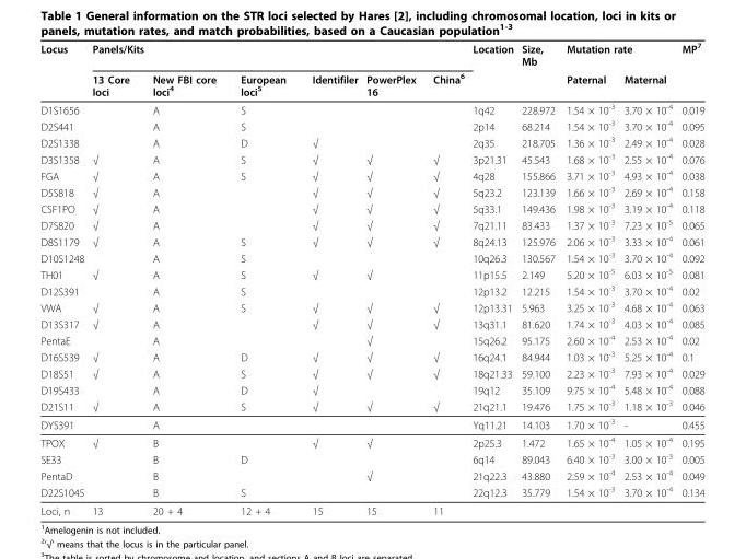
<table><thead><tr><td rowspan="2">Locus</td><td colspan="6">Panels/Kits</td><td rowspan="2">Location</td><td rowspan="2">Size, Mb</td><td colspan="2">Mutation rate</td><td rowspan="2">MP<sup>7</sup></td></tr><tr><td>13 Core loci</td><td>New FBI core loci<sup>4</sup></td><td>European loci<sup>5</sup></td><td>Identifiler</td><td>PowerPlex 16</td><td>China<sup>6</sup></td><td>Paternal</td><td>Maternal</td></tr></thead><tbody><tr><td>D1S1656</td><td></td><td>A</td><td>S</td><td></td><td></td><td></td><td>1q42</td><td>228.972</td><td>1.54 × 10<sup>-3</sup></td><td>3.70 × 10<sup>-4</sup></td><td>0.019</td></tr><tr><td>D2S441</td><td></td><td>A</td><td>S</td><td></td><td></td><td></td><td>2p14</td><td>68.214</td><td>1.54 × 10<sup>-3</sup></td><td>3.70 × 10<sup>-4</sup></td><td>0.095</td></tr><tr><td>D2S1338</td><td></td><td>A</td><td>D</td><td>√</td><td></td><td></td><td>2q35</td><td>218.705</td><td>1.36 × 10<sup>-3</sup></td><td>2.49 × 10<sup>-4</sup></td><td>0.028</td></tr><tr><td>D3S1358</td><td>√</td><td>A</td><td>S</td><td>√</td><td>√</td><td>√</td><td>3p21.31</td><td>45.543</td><td>1.68 × 10<sup>-3</sup></td><td>2.55 × 10<sup>-4</sup></td><td>0.076</td></tr><tr><td>FGA</td><td>√</td><td>A</td><td>S</td><td>√</td><td>√</td><td>√</td><td>4q28</td><td>155.866</td><td>3.71 × 10<sup>-3</sup></td><td>4.93 × 10<sup>-4</sup></td><td>0.038</td></tr><tr><td>D5S818</td><td>√</td><td>A</td><td></td><td>√</td><td>√</td><td>√</td><td>5q23.2</td><td>123.139</td><td>1.66 × 10<sup>-3</sup></td><td>2.69 × 10<sup>-4</sup></td><td>0.158</td></tr><tr><td>CSF1PO</td><td>√</td><td>A</td><td></td><td>√</td><td>√</td><td>√</td><td>5q33.1</td><td>149.436</td><td>1.98 × 10<sup>-3</sup></td><td>3.19 × 10<sup>-4</sup></td><td>0.118</td></tr><tr><td>D7S820</td><td>√</td><td>A</td><td></td><td>√</td><td>√</td><td>√</td><td>7q21.11</td><td>83.433</td><td>1.37 × 10<sup>-3</sup></td><td>7.23 × 10<sup>-5</sup></td><td>0.065</td></tr><tr><td>D8S1179</td><td>√</td><td>A</td><td>S</td><td>√</td><td>√</td><td>√</td><td>8q24.13</td><td>125.976</td><td>2.06 × 10<sup>-3</sup></td><td>3.33 × 10<sup>-4</sup></td><td>0.061</td></tr><tr><td>D10S1248</td><td></td><td>A</td><td>S</td><td></td><td></td><td></td><td>10q26.3</td><td>130.567</td><td>1.54 × 10<sup>-3</sup></td><td>3.70 × 10<sup>-4</sup></td><td>0.092</td></tr><tr><td>TH01</td><td>√</td><td>A</td><td>S</td><td>√</td><td>√</td><td></td><td>11p15.5</td><td>2.149</td><td>5.20 × 10<sup>-5</sup></td><td>6.03 × 10<sup>-5</sup></td><td>0.081</td></tr><tr><td>D12S391</td><td></td><td>A</td><td>S</td><td></td><td></td><td></td><td>12p13.2</td><td>12.215</td><td>1.54 × 10<sup>-3</sup></td><td>3.70 × 10<sup>-4</sup></td><td>0.02</td></tr><tr><td>VWA</td><td>√</td><td>A</td><td>S</td><td>√</td><td>√</td><td>√</td><td>12p13.31</td><td>5.963</td><td>3.25 × 10<sup>-3</sup></td><td>4.68 × 10<sup>-4</sup></td><td>0.063</td></tr><tr><td>D13S317</td><td>√</td><td>A</td><td></td><td>√</td><td>√</td><td>√</td><td>13q31.1</td><td>81.620</td><td>1.74 × 10<sup>-3</sup></td><td>4.03 × 10<sup>-4</sup></td><td>0.085</td></tr><tr><td>PentaE</td><td></td><td>A</td><td></td><td></td><td>√</td><td></td><td>15q26.2</td><td>95.175</td><td>2.60 × 10<sup>-4</sup></td><td>2.53 × 10<sup>-4</sup></td><td>0.02</td></tr><tr><td>D16S539</td><td>√</td><td>A</td><td>D</td><td>√</td><td>√</td><td>√</td><td>16q24.1</td><td>84.944</td><td>1.03 × 10<sup>-3</sup></td><td>5.25 × 10<sup>-4</sup></td><td>0.1</td></tr><tr><td>D18S51</td><td>√</td><td>A</td><td>S</td><td>√</td><td>√</td><td>√</td><td>18q21.33</td><td>59.100</td><td>2.23 × 10<sup>-3</sup></td><td>7.93 × 10<sup>-4</sup></td><td>0.029</td></tr><tr><td>D19S433</td><td></td><td>A</td><td>D</td><td>√</td><td></td><td></td><td>19q12</td><td>35.109</td><td>9.75 × 10<sup>-4</sup></td><td>5.48 × 10<sup>-4</sup></td><td>0.088</td></tr><tr><td>D21S11</td><td>√</td><td>A</td><td>S</td><td>√</td><td>√</td><td>√</td><td>21q21.1</td><td>19.476</td><td>1.75 × 10<sup>-3</sup></td><td>1.18 × 10<sup>-3</sup></td><td>0.046</td></tr><tr><td>DYS391</td><td></td><td>A</td><td></td><td></td><td></td><td></td><td>Yq11.21</td><td>14.103</td><td>1.70 × 10<sup>-3</sup></td><td>-</td><td>0.455</td></tr><tr><td>TPOX</td><td>√</td><td>B</td><td></td><td>√</td><td>√</td><td></td><td>2p25.3</td><td>1.472</td><td>1.65 × 10<sup>-4</sup></td><td>1.05 × 10<sup>-4</sup></td><td>0.195</td></tr><tr><td>SE33</td><td></td><td>B</td><td>D</td><td></td><td></td><td></td><td>6q14</td><td>89.043</td><td>6.40 × 10<sup>-3</sup></td><td>3.00 × 10<sup>-3</sup></td><td>0.005</td></tr><tr><td>PentaD</td><td></td><td>B</td><td></td><td></td><td>√</td><td></td><td>21q22.3</td><td>43.880</td><td>2.59 × 10<sup>-4</sup></td><td>2.53 × 10<sup>-4</sup></td><td>0.049</td></tr><tr><td>D22S1045</td><td></td><td>B</td><td>S</td><td></td><td></td><td></td><td>22q12.3</td><td>35.779</td><td>1.54 × 10<sup>-3</sup></td><td>3.70 × 10<sup>-4</sup></td><td>0.134</td></tr><tr><td>Loci, n</td><td>13</td><td>20 + 4</td><td>12 + 4</td><td>15</td><td>15</td><td>11</td><td></td><td></td><td></td><td></td><td></td></tr></tbody></table>